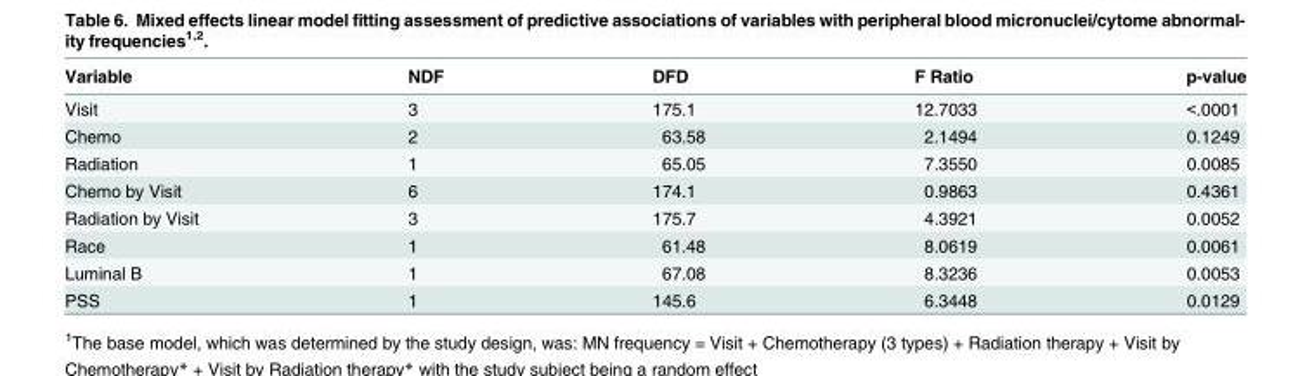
<table><thead><tr><td>Variable</td><td>NDF</td><td>DFD</td><td>F Ratio</td><td>p-value</td></tr></thead><tbody><tr><td>Visit</td><td>3</td><td>175.1</td><td>12.7033</td><td>&lt;.0001</td></tr><tr><td>Chemo</td><td>2</td><td>63.58</td><td>2.1494</td><td>0.1249</td></tr><tr><td>Radiation</td><td>1</td><td>65.05</td><td>7.3550</td><td>0.0085</td></tr><tr><td>Chemo by Visit</td><td>6</td><td>174.1</td><td>0.9863</td><td>0.4361</td></tr><tr><td>Radiation by Visit</td><td>3</td><td>175.7</td><td>4.3921</td><td>0.0052</td></tr><tr><td>Race</td><td>1</td><td>61.48</td><td>8.0619</td><td>0.0061</td></tr><tr><td>Luminal B</td><td>1</td><td>67.08</td><td>8.3236</td><td>0.0053</td></tr><tr><td>PSS</td><td>1</td><td>145.6</td><td>6.3448</td><td>0.0129</td></tr></tbody></table>